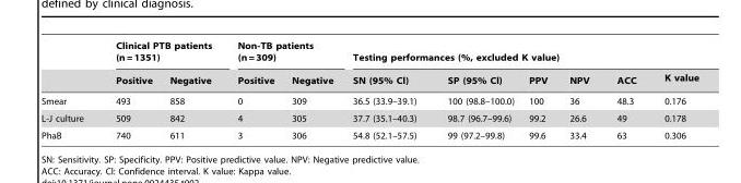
<table><thead><tr><td rowspan="2"></td><td colspan="2">Clinical PTB patients (n = 1351)</td><td colspan="2">Non-TB patients (n = 309)</td><td colspan="6">Testing performances (%, excluded K value)</td></tr><tr><td>Positive</td><td>Negative</td><td>Positive</td><td>Negative</td><td>SN (95% Cl)</td><td>SP (95% Cl)</td><td>PPV</td><td>NPV</td><td>ACC</td><td>K value</td></tr></thead><tbody><tr><td>Smear</td><td>493</td><td>858</td><td>0</td><td>309</td><td>36.5 (33.9–39.1)</td><td>100 (98.8–100.0)</td><td>100</td><td>36</td><td>48.3</td><td>0.176</td></tr><tr><td>L-J culture</td><td>509</td><td>842</td><td>4</td><td>305</td><td>37.7 (35.1–40.3)</td><td>98.7 (96.7–99.6)</td><td>99.2</td><td>26.6</td><td>49</td><td>0.178</td></tr><tr><td>PhaB</td><td>740</td><td>611</td><td>3</td><td>306</td><td>54.8 (52.1–57.5)</td><td>99 (97.2–99.8)</td><td>99.6</td><td>33.4</td><td>63</td><td>0.306</td></tr></tbody></table>